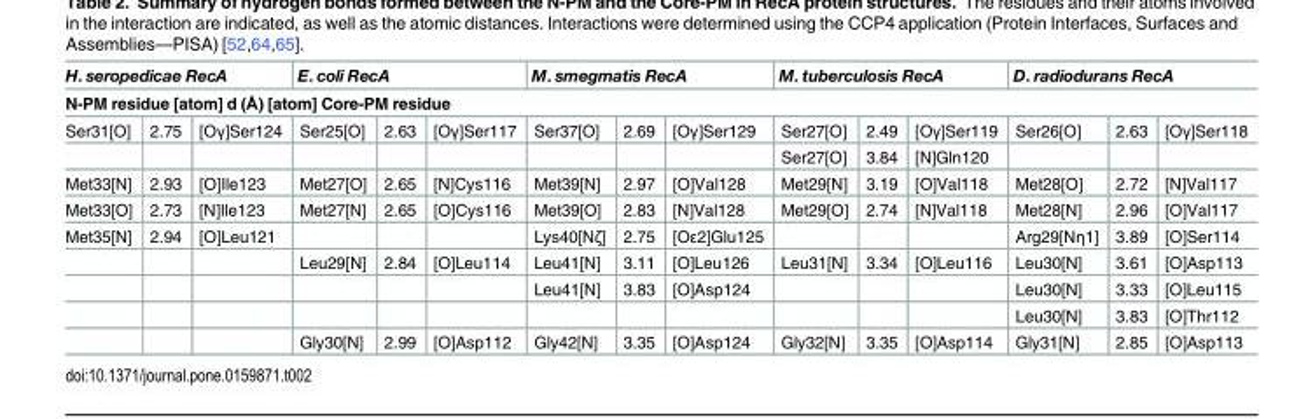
<table><thead><tr><td colspan="3">H. seropedicae RecA</td><td colspan="3">E. coli RecA</td><td colspan="3">M. smegmatis RecA</td><td colspan="3">M. tuberculosis RecA</td><td colspan="3">D. radiodurans RecA</td></tr><tr><td colspan="15">N-PM residue [atom] d (Å) [atom] Core-PM residue</td></tr><tr><td>Ser31[O]</td><td>2.75</td><td>[Oγ]Ser124</td><td>Ser25[O]</td><td>2.63</td><td>[Oγ]Ser117</td><td>Ser37[O]</td><td>2.69</td><td>[Oγ]Ser129</td><td>Ser27[O]</td><td>2.49</td><td>[Oγ]Ser119</td><td>Ser26[O]</td><td>2.63</td><td>[Oγ]Ser118</td></tr></thead><tbody><tr><td></td><td></td><td></td><td></td><td></td><td></td><td></td><td></td><td></td><td>Ser27[O]</td><td>3.84</td><td>[N]Gln120</td><td></td><td></td><td></td></tr><tr><td>Met33[N]</td><td>2.93</td><td>[O]Ile123</td><td>Met27[O]</td><td>2.65</td><td>[N]Cys116</td><td>Met39[N]</td><td>2.97</td><td>[O]Val128</td><td>Met29[N]</td><td>3.19</td><td>[O]Val118</td><td>Met28[O]</td><td>2.72</td><td>[N]Val117</td></tr><tr><td>Met33[O]</td><td>2.73</td><td>[N]Ile123</td><td>Met27[N]</td><td>2.65</td><td>[O]Cys116</td><td>Met39[O]</td><td>2.83</td><td>[N]Val128</td><td>Met29[O]</td><td>2.74</td><td>[N]Val118</td><td>Met28[N]</td><td>2.96</td><td>[O]Val117</td></tr><tr><td rowspan="5">Met35[N]</td><td>2.94</td><td>[O]Leu121</td><td></td><td></td><td></td><td>Lys40[Nζ]</td><td>2.75</td><td>[Oε2]Glu125</td><td></td><td></td><td></td><td>Arg29[Nη1]</td><td>3.89</td><td>[O]Ser114</td></tr><tr><td></td><td></td><td>Leu29[N]</td><td>2.84</td><td>[O]Leu114</td><td>Leu41[N]</td><td>3.11</td><td>[O]Leu126</td><td>Leu31[N]</td><td>3.34</td><td>[O]Leu116</td><td>Leu30[N]</td><td>3.61</td><td>[O]Asp113</td></tr><tr><td></td><td></td><td></td><td></td><td></td><td>Leu41[N]</td><td>3.83</td><td>[O]Asp124</td><td></td><td></td><td></td><td>Leu30[N]</td><td>3.33</td><td>[O]Leu115</td></tr><tr><td></td><td></td><td></td><td></td><td></td><td></td><td></td><td></td><td></td><td></td><td></td><td>Leu30[N]</td><td>3.83</td><td>[O]Thr112</td></tr><tr><td></td><td></td><td>Gly30[N]</td><td>2.99</td><td>[O]Asp112</td><td>Gly42[N]</td><td>3.35</td><td>[O]Asp124</td><td>Gly32[N]</td><td>3.35</td><td>[O]Asp114</td><td>Gly31[N]</td><td>2.85</td><td>[O]Asp113</td></tr></tbody></table>